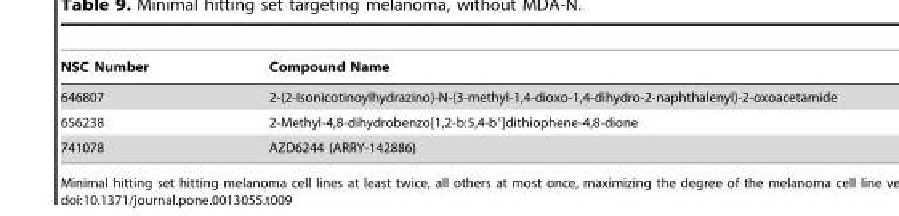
<table><thead><tr><td>NSC Number</td><td>Compound Name</td></tr></thead><tbody><tr><td>646807</td><td>2-(2-Isonicotinoylhydrazino)-N-(3-methyl-1,4-dioxo-1,4-dihydro-2-naphthalenyl)-2-oxoacetamide</td></tr><tr><td>656238</td><td>2-Methyl-4,8-dihydrobenzo[1,2-b:5,4-b′]dithiophene-4,8-dione</td></tr><tr><td>741078</td><td>AZD6244 (ARRY-142886)</td></tr></tbody></table>